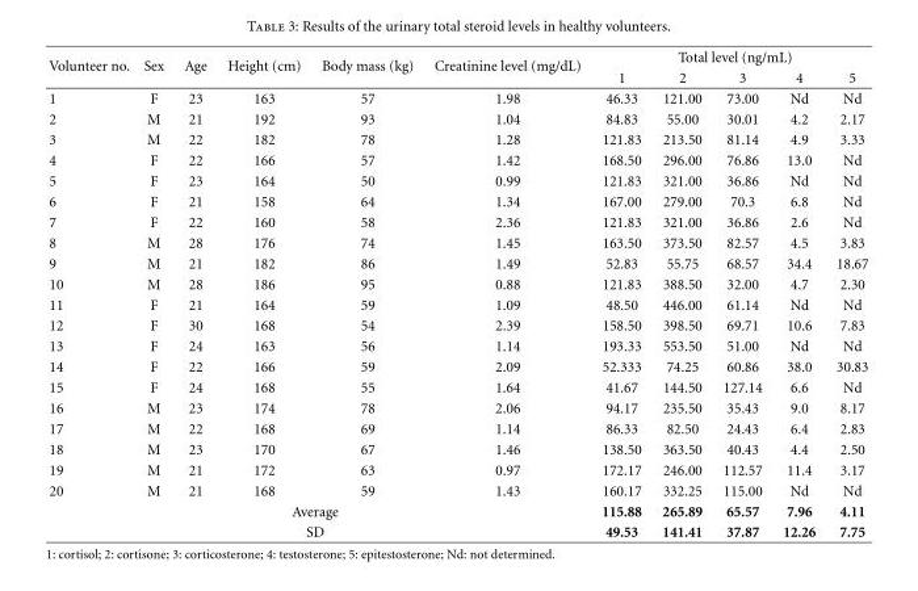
<table><thead><tr><td rowspan="2">Volunteer no.</td><td rowspan="2">Sex</td><td rowspan="2">Age</td><td rowspan="2">Height (cm)</td><td rowspan="2">Body mass (kg)</td><td rowspan="2">Creatinine level (mg/dL)</td><td colspan="5">Total level (ng/mL)</td></tr><tr><td>1</td><td>2</td><td>3</td><td>4</td><td>5</td></tr></thead><tbody><tr><td>1</td><td>F</td><td>23</td><td>163</td><td>57</td><td>1.98</td><td>46.33</td><td>121.00</td><td>73.00</td><td>Nd</td><td>Nd</td></tr><tr><td>2</td><td>M</td><td>21</td><td>192</td><td>93</td><td>1.04</td><td>84.83</td><td>55.00</td><td>30.01</td><td>4.2</td><td>2.17</td></tr><tr><td>3</td><td>M</td><td>22</td><td>182</td><td>78</td><td>1.28</td><td>121.83</td><td>213.50</td><td>81.14</td><td>4.9</td><td>3.33</td></tr><tr><td>4</td><td>F</td><td>22</td><td>166</td><td>57</td><td>1.42</td><td>168.50</td><td>296.00</td><td>76.86</td><td>13.0</td><td>Nd</td></tr><tr><td>5</td><td>F</td><td>23</td><td>164</td><td>50</td><td>0.99</td><td>121.83</td><td>321.00</td><td>36.86</td><td>Nd</td><td>Nd</td></tr><tr><td>6</td><td>F</td><td>21</td><td>158</td><td>64</td><td>1.34</td><td>167.00</td><td>279.00</td><td>70.3</td><td>6.8</td><td>Nd</td></tr><tr><td>7</td><td>F</td><td>22</td><td>160</td><td>58</td><td>2.36</td><td>121.83</td><td>321.00</td><td>36.86</td><td>2.6</td><td>Nd</td></tr><tr><td>8</td><td>M</td><td>28</td><td>176</td><td>74</td><td>1.45</td><td>163.50</td><td>373.50</td><td>82.57</td><td>4.5</td><td>3.83</td></tr><tr><td>9</td><td>M</td><td>21</td><td>182</td><td>86</td><td>1.49</td><td>52.83</td><td>55.75</td><td>68.57</td><td>34.4</td><td>18.67</td></tr><tr><td>10</td><td>M</td><td>28</td><td>186</td><td>95</td><td>0.88</td><td>121.83</td><td>388.50</td><td>32.00</td><td>4.7</td><td>2.30</td></tr><tr><td>11</td><td>F</td><td>21</td><td>164</td><td>59</td><td>1.09</td><td>48.50</td><td>446.00</td><td>61.14</td><td>Nd</td><td>Nd</td></tr><tr><td>12</td><td>F</td><td>30</td><td>168</td><td>54</td><td>2.39</td><td>158.50</td><td>398.50</td><td>69.71</td><td>10.6</td><td>7.83</td></tr><tr><td>13</td><td>F</td><td>24</td><td>163</td><td>56</td><td>1.14</td><td>193.33</td><td>553.50</td><td>51.00</td><td>Nd</td><td>Nd</td></tr><tr><td>14</td><td>F</td><td>22</td><td>166</td><td>59</td><td>2.09</td><td>52.333</td><td>74.25</td><td>60.86</td><td>38.0</td><td>30.83</td></tr><tr><td>15</td><td>F</td><td>24</td><td>168</td><td>55</td><td>1.64</td><td>41.67</td><td>144.50</td><td>127.14</td><td>6.6</td><td>Nd</td></tr><tr><td>16</td><td>M</td><td>23</td><td>174</td><td>78</td><td>2.06</td><td>94.17</td><td>235.50</td><td>35.43</td><td>9.0</td><td>8.17</td></tr><tr><td>17</td><td>M</td><td>22</td><td>168</td><td>69</td><td>1.14</td><td>86.33</td><td>82.50</td><td>24.43</td><td>6.4</td><td>2.83</td></tr><tr><td>18</td><td>M</td><td>23</td><td>170</td><td>67</td><td>1.46</td><td>138.50</td><td>363.50</td><td>40.43</td><td>4.4</td><td>2.50</td></tr><tr><td>19</td><td>M</td><td>21</td><td>172</td><td>63</td><td>0.97</td><td>172.17</td><td>246.00</td><td>112.57</td><td>11.4</td><td>3.17</td></tr><tr><td>20</td><td>M</td><td>21</td><td>168</td><td>59</td><td>1.43</td><td>160.17</td><td>332.25</td><td>115.00</td><td>Nd</td><td>Nd</td></tr><tr><td colspan="6">Average</td><td>115.88</td><td>265.89</td><td>65.57</td><td>7.96</td><td>4.11</td></tr><tr><td colspan="6">SD</td><td>49.53</td><td>141.41</td><td>37.87</td><td>12.26</td><td>7.75</td></tr></tbody></table>